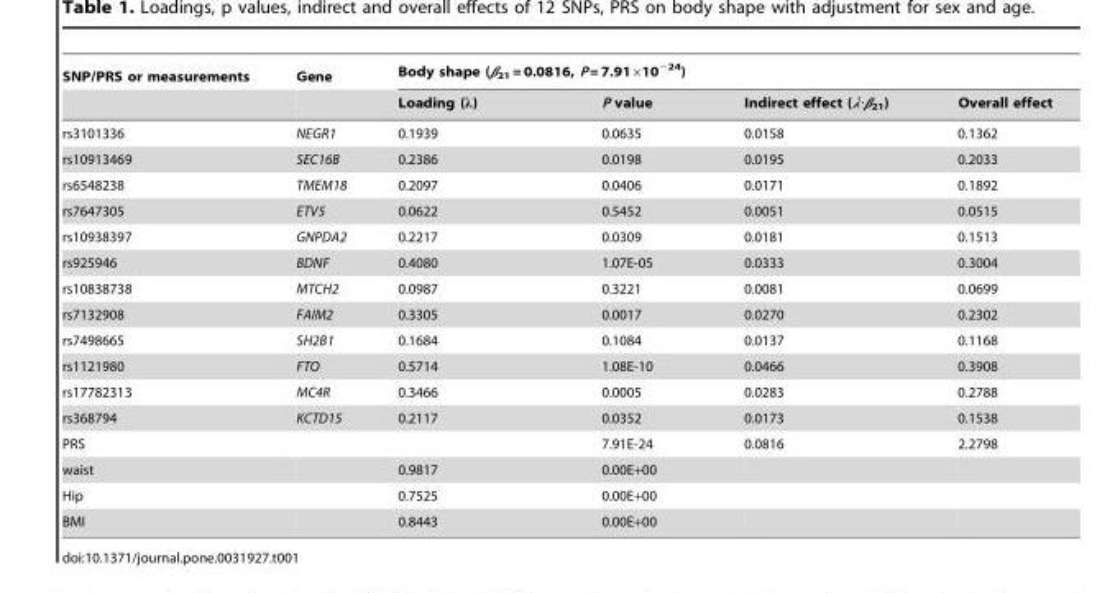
<table><thead><tr><td rowspan="2">SNP/PRS or measurements</td><td rowspan="2">Gene</td><td colspan="4">Body shape (β<sub>21</sub> = 0.0816, P = 7.91×10<sup>−24</sup>)</td></tr><tr><td>Loading (λ)</td><td>P value</td><td>Indirect effect (λ⋅β<sub>21</sub>)</td><td>Overall effect</td></tr></thead><tbody><tr><td>rs3101336</td><td>NEGR1</td><td>0.1939</td><td>0.0635</td><td>0.0158</td><td>0.1362</td></tr><tr><td>rs10913469</td><td>SEC16B</td><td>0.2386</td><td>0.0198</td><td>0.0195</td><td>0.2033</td></tr><tr><td>rs6548238</td><td>TMEM18</td><td>0.2097</td><td>0.0406</td><td>0.0171</td><td>0.1892</td></tr><tr><td>rs7647305</td><td>ETV5</td><td>0.0622</td><td>0.5452</td><td>0.0051</td><td>0.0515</td></tr><tr><td>rs10938397</td><td>GNPDA2</td><td>0.2217</td><td>0.0309</td><td>0.0181</td><td>0.1513</td></tr><tr><td>rs925946</td><td>BDNF</td><td>0.4080</td><td>1.07E-05</td><td>0.0333</td><td>0.3004</td></tr><tr><td>rs10838738</td><td>MTCH2</td><td>0.0987</td><td>0.3221</td><td>0.0081</td><td>0.0699</td></tr><tr><td>rs7132908</td><td>FAIM2</td><td>0.3305</td><td>0.0017</td><td>0.0270</td><td>0.2302</td></tr><tr><td>rs7498665</td><td>SH2B1</td><td>0.1684</td><td>0.1084</td><td>0.0137</td><td>0.1168</td></tr><tr><td>rs1121980</td><td>FTO</td><td>0.5714</td><td>1.08E-10</td><td>0.0466</td><td>0.3908</td></tr><tr><td>rs17782313</td><td>MC4R</td><td>0.3466</td><td>0.0005</td><td>0.0283</td><td>0.2788</td></tr><tr><td>rs368794</td><td>KCTD15</td><td>0.2117</td><td>0.0352</td><td>0.0173</td><td>0.1538</td></tr><tr><td>PRS</td><td></td><td></td><td>7.91E-24</td><td>0.0816</td><td>2.2798</td></tr><tr><td>waist</td><td></td><td>0.9817</td><td>0.00E+00</td><td></td><td></td></tr><tr><td>Hip</td><td></td><td>0.7525</td><td>0.00E+00</td><td></td><td></td></tr><tr><td>BMI</td><td></td><td>0.8443</td><td>0.00E+00</td><td></td><td></td></tr></tbody></table>